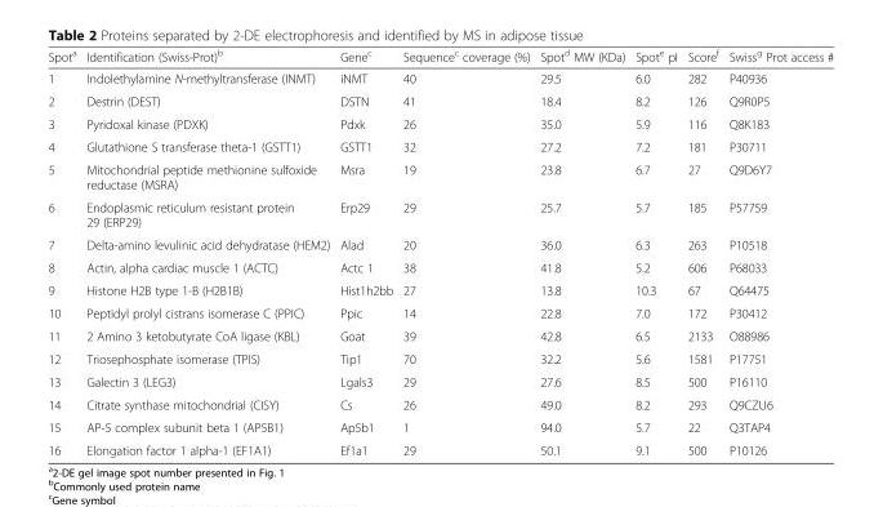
<table><thead><tr><td>Spot<sup>a</sup></td><td>Identification (Swiss-Prot)<sup>b</sup></td><td>Gene<sup>c</sup></td><td>Sequence<sup>c</sup> coverage (%)</td><td>Spot<sup>d</sup> MW (KDa)</td><td>Spot<sup>e</sup> pI</td><td>Score<sup>f</sup></td><td>Swiss<sup>g</sup> Prot access #</td></tr></thead><tbody><tr><td>1</td><td>Indolethylamine N-methyltransferase (INMT)</td><td>iNMT</td><td>40</td><td>29.5</td><td>6.0</td><td>282</td><td>P40936</td></tr><tr><td>2</td><td>Destrin (DEST)</td><td>DSTN</td><td>41</td><td>18.4</td><td>8.2</td><td>126</td><td>Q9R0P5</td></tr><tr><td>3</td><td>Pyridoxal kinase (PDXK)</td><td>Pdxk</td><td>26</td><td>35.0</td><td>5.9</td><td>116</td><td>Q8K183</td></tr><tr><td>4</td><td>Glutathione S transferase theta-1 (GSTT1)</td><td>GSTT1</td><td>32</td><td>27.2</td><td>7.2</td><td>181</td><td>P30711</td></tr><tr><td>5</td><td>Mitochondrial peptide methionine sulfoxide reductase (MSRA)</td><td>Msra</td><td>19</td><td>23.8</td><td>6.7</td><td>27</td><td>Q9D6Y7</td></tr><tr><td>6</td><td>Endoplasmic reticulum resistant protein 29 (ERP29)</td><td>Erp29</td><td>29</td><td>25.7</td><td>5.7</td><td>185</td><td>P57759</td></tr><tr><td>7</td><td>Delta-amino levulinic acid dehydratase (HEM2)</td><td>Alad</td><td>20</td><td>36.0</td><td>6.3</td><td>263</td><td>P10518</td></tr><tr><td>8</td><td>Actin, alpha cardiac muscle 1 (ACTC)</td><td>Actc 1</td><td>38</td><td>41.8</td><td>5.2</td><td>606</td><td>P68033</td></tr><tr><td>9</td><td>Histone H2B type 1-B (H2B1B)</td><td>Hist1h2bb</td><td>27</td><td>13.8</td><td>10.3</td><td>67</td><td>Q64475</td></tr><tr><td>10</td><td>Peptidyl prolyl cistrans isomerase C (PPIC)</td><td>Ppic</td><td>14</td><td>22.8</td><td>7.0</td><td>172</td><td>P30412</td></tr><tr><td>11</td><td>2 Amino 3 ketobutyrate CoA ligase (KBL)</td><td>Goat</td><td>39</td><td>42.8</td><td>6.5</td><td>2133</td><td>O88986</td></tr><tr><td>12</td><td>Triosephosphate isomerase (TPIS)</td><td>Tip1</td><td>70</td><td>32.2</td><td>5.6</td><td>1581</td><td>P17751</td></tr><tr><td>13</td><td>Galectin 3 (LEG3)</td><td>Lgals3</td><td>29</td><td>27.6</td><td>8.5</td><td>500</td><td>P16110</td></tr><tr><td>14</td><td>Citrate synthase mitochondrial (CISY)</td><td>Cs</td><td>26</td><td>49.0</td><td>8.2</td><td>293</td><td>Q9CZU6</td></tr><tr><td>15</td><td>AP-5 complex subunit beta 1 (AP5B1)</td><td>Ap5b1</td><td>1</td><td>94.0</td><td>5.7</td><td>22</td><td>Q3TAP4</td></tr><tr><td>16</td><td>Elongation factor 1 alpha-1 (EF1A1)</td><td>Ef1a1</td><td>29</td><td>50.1</td><td>9.1</td><td>500</td><td>P10126</td></tr></tbody></table>